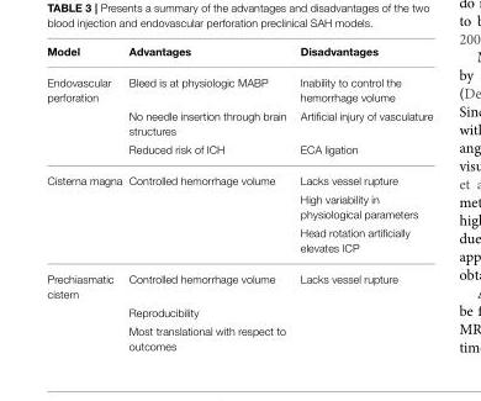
<table><thead><tr><td>Model</td><td>Advantages</td><td>Disadvantages</td></tr></thead><tbody><tr><td rowspan="3">Endovascular perforation</td><td>Bleed is at physiologic MABP</td><td>Inability to control the hemorrhage volume</td></tr><tr><td>No needle insertion through brain structures</td><td>Artificial injury of vasculature</td></tr><tr><td>Reduced risk of ICH</td><td>ECA ligation</td></tr><tr><td rowspan="3">Cisterna magna</td><td>Controlled hemorrhage volume</td><td>Lacks vessel rupture</td></tr><tr><td></td><td>High variability in physiological parameters</td></tr><tr><td></td><td>Head rotation artificially elevates ICP</td></tr><tr><td rowspan="3">Prechiasmatic cistern</td><td>Controlled hemorrhage volume</td><td>Lacks vessel rupture</td></tr><tr><td>Reproducibility</td><td></td></tr><tr><td>Most translational with respect to outcomes</td><td></td></tr></tbody></table>